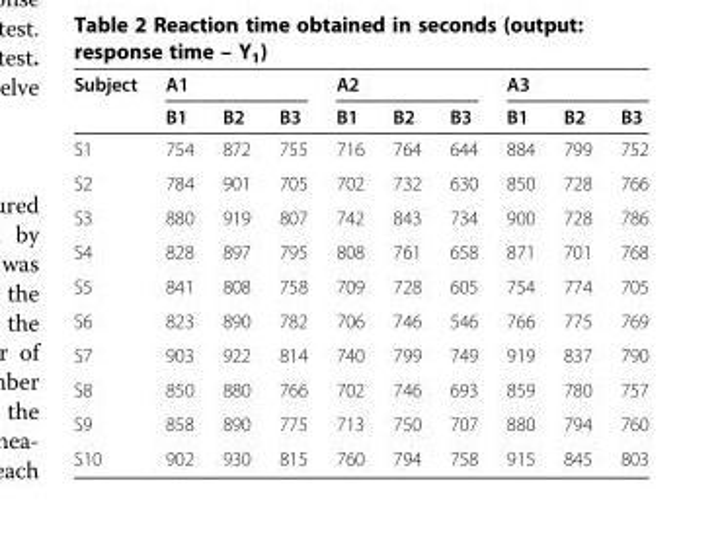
<table><thead><tr><td rowspan="2">Subject</td><td colspan="3">A1</td><td colspan="3">A2</td><td colspan="3">A3</td></tr><tr><td>B1</td><td>B2</td><td>B3</td><td>B1</td><td>B2</td><td>B3</td><td>B1</td><td>B2</td><td>B3</td></tr></thead><tbody><tr><td>S1</td><td>754</td><td>872</td><td>755</td><td>716</td><td>764</td><td>644</td><td>884</td><td>799</td><td>752</td></tr><tr><td>S2</td><td>784</td><td>901</td><td>705</td><td>702</td><td>732</td><td>630</td><td>850</td><td>728</td><td>766</td></tr><tr><td>S3</td><td>880</td><td>919</td><td>807</td><td>742</td><td>843</td><td>734</td><td>900</td><td>728</td><td>786</td></tr><tr><td>S4</td><td>828</td><td>897</td><td>795</td><td>808</td><td>761</td><td>658</td><td>871</td><td>701</td><td>768</td></tr><tr><td>S5</td><td>841</td><td>808</td><td>758</td><td>709</td><td>728</td><td>605</td><td>754</td><td>774</td><td>705</td></tr><tr><td>S6</td><td>823</td><td>890</td><td>782</td><td>706</td><td>746</td><td>546</td><td>766</td><td>775</td><td>769</td></tr><tr><td>S7</td><td>903</td><td>922</td><td>814</td><td>740</td><td>799</td><td>749</td><td>919</td><td>837</td><td>790</td></tr><tr><td>S8</td><td>850</td><td>880</td><td>766</td><td>702</td><td>746</td><td>693</td><td>859</td><td>780</td><td>757</td></tr><tr><td>S9</td><td>858</td><td>890</td><td>775</td><td>713</td><td>750</td><td>707</td><td>880</td><td>794</td><td>760</td></tr><tr><td>S10</td><td>902</td><td>930</td><td>815</td><td>760</td><td>794</td><td>758</td><td>915</td><td>845</td><td>803</td></tr></tbody></table>